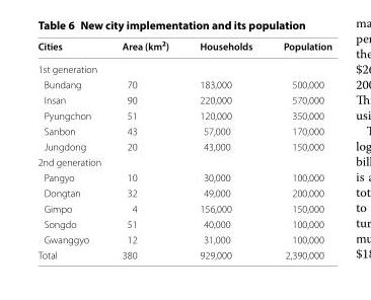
<table><thead><tr><td>Cities</td><td>Area (km<sup>2</sup>)</td><td>Households</td><td>Population</td></tr></thead><tbody><tr><td colspan="4">1st generation</td></tr><tr><td>Bundang</td><td>70</td><td>183,000</td><td>500,000</td></tr><tr><td>Insan</td><td>90</td><td>220,000</td><td>570,000</td></tr><tr><td>Pyungchon</td><td>51</td><td>120,000</td><td>350,000</td></tr><tr><td>Sanbon</td><td>43</td><td>57,000</td><td>170,000</td></tr><tr><td>Jungdong</td><td>20</td><td>43,000</td><td>150,000</td></tr><tr><td colspan="4">2nd generation</td></tr><tr><td>Pangyo</td><td>10</td><td>30,000</td><td>100,000</td></tr><tr><td>Dongtan</td><td>32</td><td>49,000</td><td>200,000</td></tr><tr><td>Gimpo</td><td>4</td><td>156,000</td><td>150,000</td></tr><tr><td>Songdo</td><td>51</td><td>40,000</td><td>100,000</td></tr><tr><td>Gwanggyo</td><td>12</td><td>31,000</td><td>100,000</td></tr><tr><td>Total</td><td>380</td><td>929,000</td><td>2,390,000</td></tr></tbody></table>